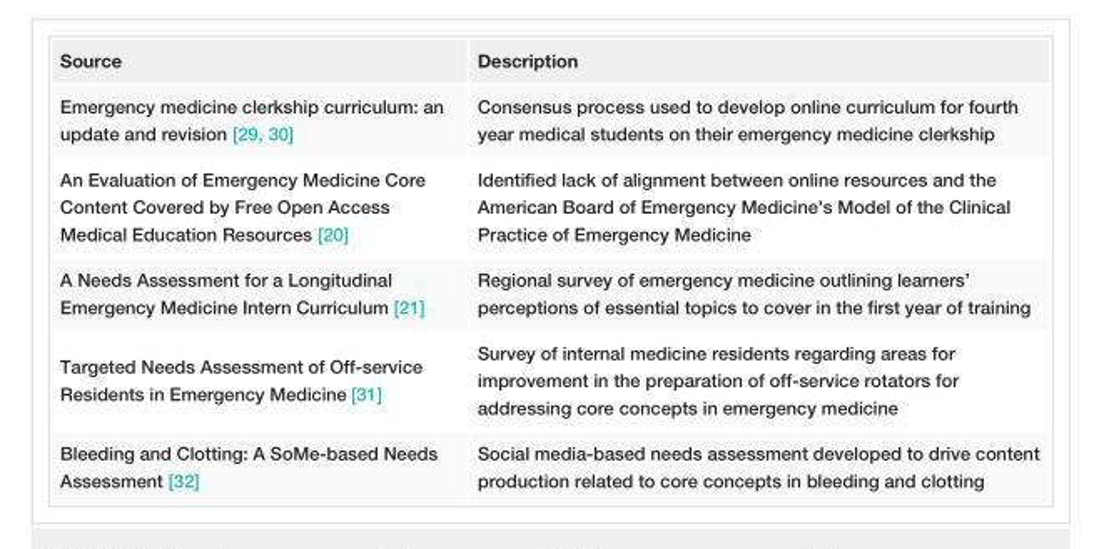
<table><tbody><tr><td>Source</td><td>Description</td></tr><tr><td>Emergency medicine clerkship curriculum: an update and revision [29, 30]</td><td>Consensus process used to develop online curriculum for fourth year medical students on their emergency medicine clerkship</td></tr><tr><td>An Evaluation of Emergency Medicine Core Content Covered by Free Open Access Medical Education Resources [20]</td><td>Identified lack of alignment between online resources and the American Board of Emergency Medicine&#x27;s Model of the Clinical Practice of Emergency Medicine</td></tr><tr><td>A Needs Assessment for a Longitudinal Emergency Medicine Intern Curriculum [21]</td><td>Regional survey of emergency medicine outlining learners’ perceptions of essential topics to cover in the first year of training</td></tr><tr><td>Targeted Needs Assessment of Off-service Residents in Emergency Medicine [31]</td><td>Survey of internal medicine residents regarding areas for improvement in the preparation of off-service rotators for addressing core concepts in emergency medicine</td></tr><tr><td>Bleeding and Clotting: A SoMe-based Needs Assessment [32]</td><td>Social media-based needs assessment developed to drive content production related to core concepts in bleeding and clotting</td></tr></tbody></table>